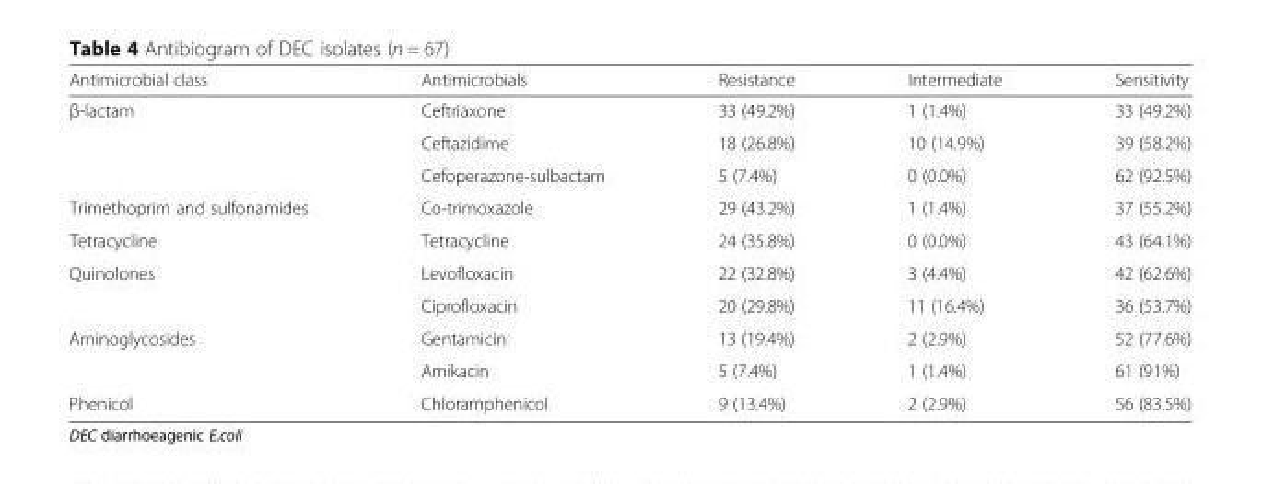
<table><thead><tr><td>Antimicrobial class</td><td>Antimicrobials</td><td>Resistance</td><td>Intermediate</td><td>Sensitivity</td></tr></thead><tbody><tr><td rowspan="3">β-lactam</td><td>Ceftriaxone</td><td>33 (49.2%)</td><td>1 (1.4%)</td><td>33 (49.2%)</td></tr><tr><td>Ceftazidime</td><td>18 (26.8%)</td><td>10 (14.9%)</td><td>39 (58.2%)</td></tr><tr><td>Cefoperazone-sulbactam</td><td>5 (7.4%)</td><td>0 (0.0%)</td><td>62 (92.5%)</td></tr><tr><td>Trimethoprim and sulfonamides</td><td>Co-trimoxazole</td><td>29 (43.2%)</td><td>1 (1.4%)</td><td>37 (55.2%)</td></tr><tr><td>Tetracycline</td><td>Tetracycline</td><td>24 (35.8%)</td><td>0 (0.0%)</td><td>43 (64.1%)</td></tr><tr><td rowspan="2">Quinolones</td><td>Levofloxacin</td><td>22 (32.8%)</td><td>3 (4.4%)</td><td>42 (62.6%)</td></tr><tr><td>Ciprofloxacin</td><td>20 (29.8%)</td><td>11 (16.4%)</td><td>36 (53.7%)</td></tr><tr><td rowspan="2">Aminoglycosides</td><td>Gentamicin</td><td>13 (19.4%)</td><td>2 (2.9%)</td><td>52 (77.6%)</td></tr><tr><td>Amikacin</td><td>5 (7.4%)</td><td>1 (1.4%)</td><td>61 (91%)</td></tr><tr><td>Phenicol</td><td>Chloramphenicol</td><td>9 (13.4%)</td><td>2 (2.9%)</td><td>56 (83.5%)</td></tr></tbody></table>